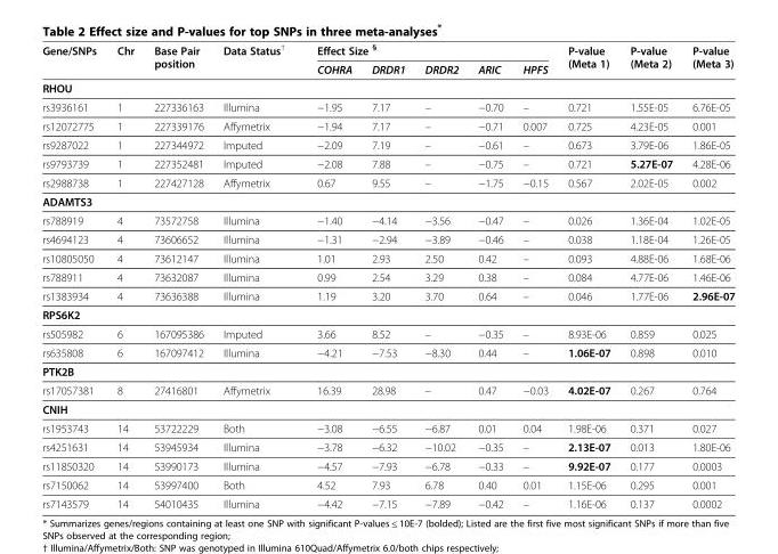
<table><thead><tr><td rowspan="2">Gene/SNPs</td><td rowspan="2">Chr</td><td rowspan="2">Base Pair position</td><td rowspan="2">Data Status<sup>†</sup></td><td colspan="5">Effect Size <sup>§</sup></td><td rowspan="2">P-value (Meta 1)</td><td rowspan="2">P-value (Meta 2)</td><td rowspan="2">P-value (Meta 3)</td></tr><tr><td>COHRA</td><td>DRDR1</td><td>DRDR2</td><td>ARIC</td><td>HPFS</td></tr></thead><tbody><tr><td colspan="12">RHOU</td></tr><tr><td>rs3936161</td><td>1</td><td>227336163</td><td>Illumina</td><td>−1.95</td><td>7.17</td><td>–</td><td>−0.70</td><td>–</td><td>0.721</td><td>1.55E-05</td><td>6.76E-05</td></tr><tr><td>rs12072775</td><td>1</td><td>227339176</td><td>Affymetrix</td><td>−1.94</td><td>7.17</td><td>–</td><td>−0.71</td><td>0.007</td><td>0.725</td><td>4.23E-05</td><td>0.001</td></tr><tr><td>rs9287022</td><td>1</td><td>227344972</td><td>Imputed</td><td>−2.09</td><td>7.19</td><td>–</td><td>−0.61</td><td>–</td><td>0.673</td><td>3.79E-06</td><td>1.86E-05</td></tr><tr><td>rs9793739</td><td>1</td><td>227352481</td><td>Imputed</td><td>−2.08</td><td>7.88</td><td>–</td><td>−0.75</td><td>–</td><td>0.721</td><td>5.27E-07</td><td>4.28E-06</td></tr><tr><td>rs2988738</td><td>1</td><td>227427128</td><td>Affymetrix</td><td>0.67</td><td>9.55</td><td>–</td><td>−1.75</td><td>−0.15</td><td>0.567</td><td>2.02E-05</td><td>0.002</td></tr><tr><td colspan="12">ADAMTS3</td></tr><tr><td>rs788919</td><td>4</td><td>73572758</td><td>Illumina</td><td>−1.40</td><td>−4.14</td><td>−3.56</td><td>−0.47</td><td>–</td><td>0.026</td><td>1.36E-04</td><td>1.02E-05</td></tr><tr><td>rs4694123</td><td>4</td><td>73606652</td><td>Illumina</td><td>−1.31</td><td>−2.94</td><td>−3.89</td><td>−0.46</td><td>–</td><td>0.038</td><td>1.18E-04</td><td>1.26E-05</td></tr><tr><td>rs10805050</td><td>4</td><td>73612147</td><td>Illumina</td><td>1.01</td><td>2.93</td><td>2.50</td><td>0.42</td><td>–</td><td>0.093</td><td>4.88E-06</td><td>1.68E-06</td></tr><tr><td>rs788911</td><td>4</td><td>73632087</td><td>Illumina</td><td>0.99</td><td>2.54</td><td>3.29</td><td>0.38</td><td>–</td><td>0.084</td><td>4.77E-06</td><td>1.46E-06</td></tr><tr><td>rs1383934</td><td>4</td><td>73636388</td><td>Illumina</td><td>1.19</td><td>3.20</td><td>3.70</td><td>0.64</td><td>–</td><td>0.046</td><td>1.77E-06</td><td>2.96E-07</td></tr><tr><td colspan="12">RPS6K2</td></tr><tr><td>rs505982</td><td>6</td><td>167095386</td><td>Imputed</td><td>3.66</td><td>8.52</td><td>–</td><td>−0.35</td><td>–</td><td>8.93E-06</td><td>0.859</td><td>0.025</td></tr><tr><td>rs635808</td><td>6</td><td>167097412</td><td>Illumina</td><td>−4.21</td><td>−7.53</td><td>−8.30</td><td>0.44</td><td>–</td><td>1.06E-07</td><td>0.898</td><td>0.010</td></tr><tr><td colspan="12">PTK2B</td></tr><tr><td>rs17057381</td><td>8</td><td>27416801</td><td>Affymetrix</td><td>16.39</td><td>28.98</td><td>–</td><td>0.47</td><td>−0.03</td><td>4.02E-07</td><td>0.267</td><td>0.764</td></tr><tr><td colspan="12">CNIH</td></tr><tr><td>rs1953743</td><td>14</td><td>53722229</td><td>Both</td><td>−3.08</td><td>−6.55</td><td>−6.87</td><td>0.01</td><td>0.04</td><td>1.98E-06</td><td>0.371</td><td>0.027</td></tr><tr><td>rs4251631</td><td>14</td><td>53945934</td><td>Illumina</td><td>−3.78</td><td>−6.32</td><td>−10.02</td><td>−0.35</td><td>–</td><td>2.13E-07</td><td>0.013</td><td>1.80E-06</td></tr><tr><td>rs11850320</td><td>14</td><td>53990173</td><td>Illumina</td><td>−4.57</td><td>−7.93</td><td>−6.78</td><td>−0.33</td><td>–</td><td>9.92E-07</td><td>0.177</td><td>0.0003</td></tr><tr><td>rs7150062</td><td>14</td><td>53997400</td><td>Both</td><td>4.52</td><td>7.93</td><td>6.78</td><td>0.40</td><td>0.01</td><td>1.15E-06</td><td>0.295</td><td>0.001</td></tr><tr><td>rs7143579</td><td>14</td><td>54010435</td><td>Illumina</td><td>−4.42</td><td>−7.15</td><td>−7.89</td><td>−0.42</td><td>–</td><td>1.16E-06</td><td>0.137</td><td>0.0002</td></tr></tbody></table>